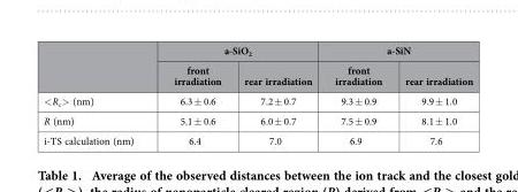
<table><thead><tr><td rowspan="2"></td><td colspan="2">a-SiO<sub>2</sub></td><td colspan="2">a-SiN</td></tr><tr><td>front irradiation</td><td>rear irradiation</td><td>front irradiation</td><td>rear irradiation</td></tr></thead><tbody><tr><td>&lt; R<sub>c</sub>&gt; (nm)</td><td>6.3 ± 0.6</td><td>7.2 ± 0.7</td><td>9.3 ± 0.9</td><td>9.9 ± 1.0</td></tr><tr><td>R (nm)</td><td>5.1 ± 0.6</td><td>6.0 ± 0.7</td><td>7.5 ± 0.9</td><td>8.1 ± 1.0</td></tr><tr><td>i-TS calculation (nm)</td><td>6.4</td><td>7.0</td><td>6.9</td><td>7.6</td></tr></tbody></table>